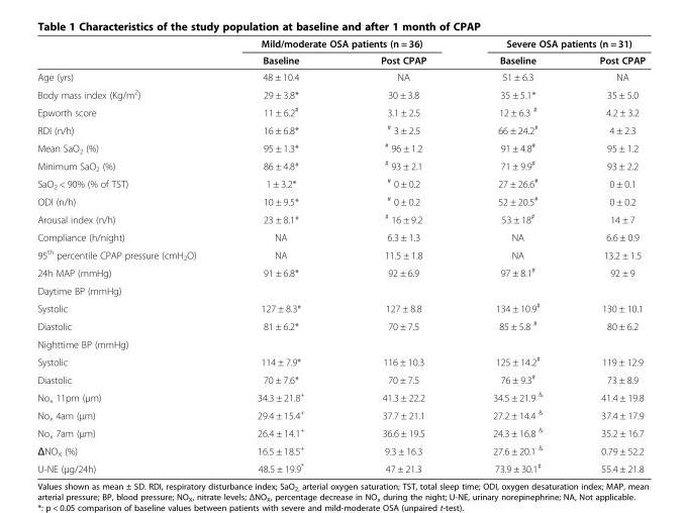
<table><thead><tr><td rowspan="2"></td><td colspan="2">Mild/moderate OSA patients (n = 36)</td><td colspan="2">Severe OSA patients (n = 31)</td></tr><tr><td>Baseline</td><td>Post CPAP</td><td>Baseline</td><td>Post CPAP</td></tr></thead><tbody><tr><td>Age (yrs)</td><td>48 ± 10.4</td><td>NA</td><td>51 ± 6.3</td><td>NA</td></tr><tr><td>Body mass index (Kg/m<sup>2</sup>)</td><td>29 ± 3.8*</td><td>30 ± 3.8</td><td>35 ± 5.1*</td><td>35 ± 5.0</td></tr><tr><td>Epworth score</td><td>11 ± 6.2<sup>#</sup></td><td>3.1 ± 2.5</td><td>12 ± 6.3 <sup>#</sup></td><td>4.2 ± 3.2</td></tr><tr><td>RDI (n/h)</td><td>16 ± 6.8*</td><td><sup>#</sup> 3 ± 2.5</td><td>66 ± 24.2<sup>#</sup></td><td>4 ± 2.3</td></tr><tr><td>Mean SaO<sub>2</sub> (%)</td><td>95 ± 1.3*</td><td><sup>#</sup> 96 ± 1.2</td><td>91 ± 4.8<sup>#</sup></td><td>95 ± 1.2</td></tr><tr><td>Minimum SaO<sub>2</sub> (%)</td><td>86 ± 4.8*</td><td><sup>#</sup> 93 ± 2.1</td><td>71 ± 9.9<sup>#</sup></td><td>93 ± 2.2</td></tr><tr><td>SaO<sub>2</sub> &lt; 90% (% of TST)</td><td>1 ± 3.2*</td><td><sup>#</sup> 0 ± 0.2</td><td>27 ± 26.6<sup>#</sup></td><td>0 ± 0.1</td></tr><tr><td>ODI (n/h)</td><td>10 ± 9.5*</td><td><sup>#</sup> 0 ± 0.2</td><td>52 ± 20.5<sup>#</sup></td><td>0 ± 0.2</td></tr><tr><td>Arousal index (n/h)</td><td>23 ± 8.1*</td><td><sup>#</sup> 16 ± 9.2</td><td>53 ± 18<sup>#</sup></td><td>14 ± 7</td></tr><tr><td>Compliance (h/night)</td><td>NA</td><td>6.3 ± 1.3</td><td>NA</td><td>6.6 ± 0.9</td></tr><tr><td>95<sup>th</sup> percentile CPAP pressure (cmH<sub>2</sub>O)</td><td>NA</td><td>11.5 ± 1.8</td><td>NA</td><td>13.2 ± 1.5</td></tr><tr><td>24h MAP (mmHg)</td><td>91 ± 6.8*</td><td>92 ± 6.9</td><td>97 ± 8.1<sup>#</sup></td><td>92 ± 9</td></tr><tr><td colspan="5">Daytime BP (mmHg)</td></tr><tr><td>Systolic</td><td>127 ± 8.3*</td><td>127 ± 8.8</td><td>134 ± 10.9<sup>#</sup></td><td>130 ± 10.1</td></tr><tr><td>Diastolic</td><td>81 ± 6.2*</td><td>70 ± 7.5</td><td>85 ± 5.8 <sup>#</sup></td><td>80 ± 6.2</td></tr><tr><td colspan="5">Nighttime BP (mmHg)</td></tr><tr><td>Systolic</td><td>114 ± 7.9*</td><td>116 ± 10.3</td><td>125 ± 14.2<sup>#</sup></td><td>119 ± 12.9</td></tr><tr><td>Diastolic</td><td>70 ± 7.6*</td><td>70 ± 7.5</td><td>76 ± 9.3<sup>#</sup></td><td>73 ± 8.9</td></tr><tr><td>No<sub>x</sub> 11pm (μm)</td><td>34.3 ± 21.8<sup>+</sup></td><td>41.3 ± 22.2</td><td>34.5 ± 21.9 <sup>&amp;</sup></td><td>41.4 ± 19.8</td></tr><tr><td>No<sub>x</sub> 4am (μm)</td><td>29.4 ± 15.4<sup>+</sup></td><td>37.7 ± 21.1</td><td>27.2 ± 14.4 <sup>&amp;</sup></td><td>37.4 ± 17.9</td></tr><tr><td>No<sub>x</sub> 7am (μm)</td><td>26.4 ± 14.1<sup>+</sup></td><td>36.6 ± 19.5</td><td>24.3 ± 16.8 <sup>&amp;</sup></td><td>35.2 ± 16.7</td></tr><tr><td>ΔNO<sub>X</sub> (%)</td><td>16.5 ± 18.5<sup>+</sup></td><td>9.3 ± 16.3</td><td>27.6 ± 20.1 <sup>&amp;</sup></td><td>0.79 ± 52.2</td></tr><tr><td>U-NE (μg/24h)</td><td>48.5 ± 19.9*</td><td>47 ± 21.3</td><td>73.9 ± 30.1<sup>#</sup></td><td>55.4 ± 21.8</td></tr></tbody></table>